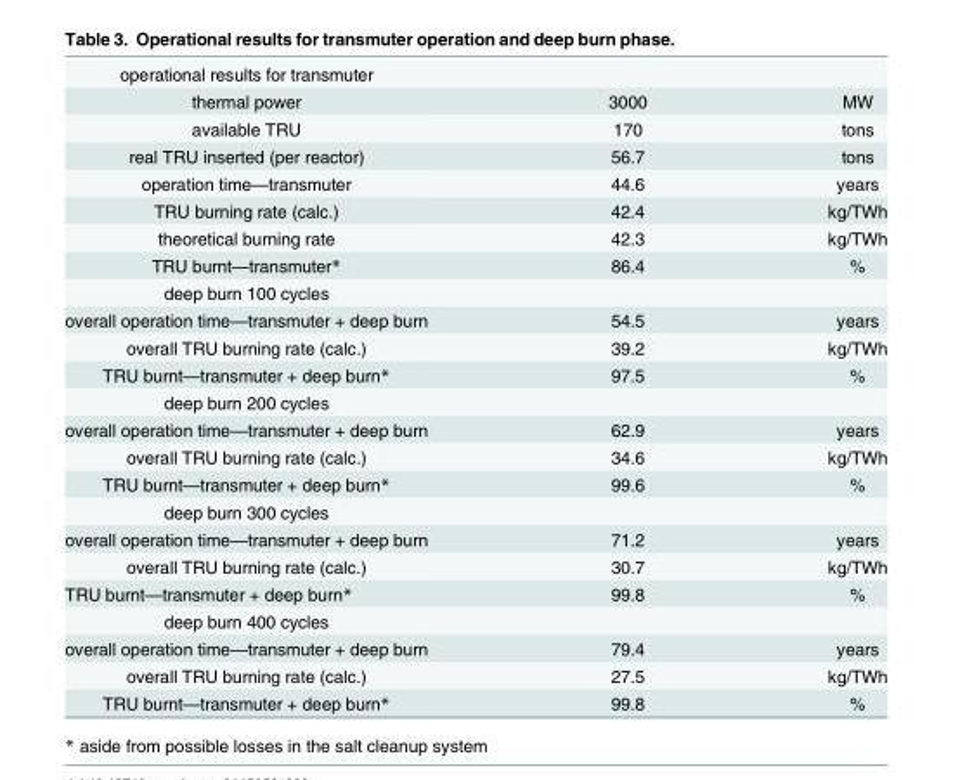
<table><tbody><tr><td colspan="3">operational results for transmuter</td></tr><tr><td>thermal power</td><td>3000</td><td>MW</td></tr><tr><td>available TRU</td><td>170</td><td>tons</td></tr><tr><td>real TRU inserted (per reactor)</td><td>56.7</td><td>tons</td></tr><tr><td>operation time—transmuter</td><td>44.6</td><td>years</td></tr><tr><td>TRU burning rate (calc.)</td><td>42.4</td><td>kg/TWh</td></tr><tr><td>theoretical burning rate</td><td>42.3</td><td>kg/TWh</td></tr><tr><td>TRU burnt—transmuter*</td><td>86.4</td><td>%</td></tr><tr><td colspan="3">deep burn 100 cycles</td></tr><tr><td>overall operation time—transmuter + deep burn</td><td>54.5</td><td>years</td></tr><tr><td>overall TRU burning rate (calc.)</td><td>39.2</td><td>kg/TWh</td></tr><tr><td>TRU burnt—transmuter + deep burn*</td><td>97.5</td><td>%</td></tr><tr><td colspan="3">deep burn 200 cycles</td></tr><tr><td>overall operation time—transmuter + deep burn</td><td>62.9</td><td>years</td></tr><tr><td>overall TRU burning rate (calc.)</td><td>34.6</td><td>kg/TWh</td></tr><tr><td>TRU burnt—transmuter + deep burn*</td><td>99.6</td><td>%</td></tr><tr><td colspan="3">deep burn 300 cycles</td></tr><tr><td>overall operation time—transmuter + deep burn</td><td>71.2</td><td>years</td></tr><tr><td>overall TRU burning rate (calc.)</td><td>30.7</td><td>kg/TWh</td></tr><tr><td>TRU burnt—transmuter + deep burn*</td><td>99.8</td><td>%</td></tr><tr><td colspan="3">deep burn 400 cycles</td></tr><tr><td>overall operation time—transmuter + deep burn</td><td>79.4</td><td>years</td></tr><tr><td>overall TRU burning rate (calc.)</td><td>27.5</td><td>kg/TWh</td></tr><tr><td>TRU burnt—transmuter + deep burn*</td><td>99.8</td><td>%</td></tr></tbody></table>